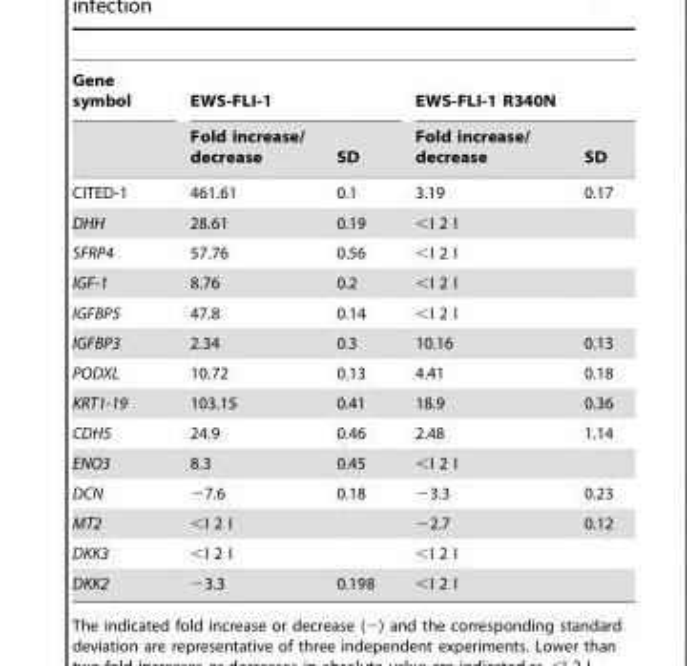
<table><thead><tr><td rowspan="2">Gene symbol</td><td colspan="2">EWS-FLI-1</td><td colspan="2">EWS-FLI-1 R340N</td></tr><tr><td>Fold increase/ decrease</td><td>SD</td><td>Fold increase/ decrease</td><td>SD</td></tr></thead><tbody><tr><td>CITED-1</td><td>461.61</td><td>0.1</td><td>3.19</td><td>0.17</td></tr><tr><td>DHH</td><td>28.61</td><td>0.19</td><td>&lt;I 2 I</td><td></td></tr><tr><td>SFRP4</td><td>57.76</td><td>0.56</td><td>&lt;I 2 I</td><td></td></tr><tr><td>IGF-1</td><td>8.76</td><td>0.2</td><td>&lt;I 2 I</td><td></td></tr><tr><td>IGFBP5</td><td>47.8</td><td>0.14</td><td>&lt;I 2 I</td><td></td></tr><tr><td>IGFBP3</td><td>2.34</td><td>0.3</td><td>10.16</td><td>0.13</td></tr><tr><td>PODXL</td><td>10.72</td><td>0.13</td><td>4.41</td><td>0.18</td></tr><tr><td>KRT1-19</td><td>103.15</td><td>0.41</td><td>18.9</td><td>0.36</td></tr><tr><td>CDH5</td><td>24.9</td><td>0.46</td><td>2.48</td><td>1.14</td></tr><tr><td>ENO3</td><td>8.3</td><td>0.45</td><td>&lt;I 2 I</td><td></td></tr><tr><td>DCN</td><td>−7.6</td><td>0.18</td><td>−3.3</td><td>0.23</td></tr><tr><td>MT2</td><td>&lt;I 2 I</td><td></td><td>−2.7</td><td>0.12</td></tr><tr><td>DKK3</td><td>&lt;I 2 I</td><td></td><td>&lt;I 2 I</td><td></td></tr><tr><td>DKK2</td><td>−3.3</td><td>0.198</td><td>&lt;I 2 I</td><td></td></tr></tbody></table>